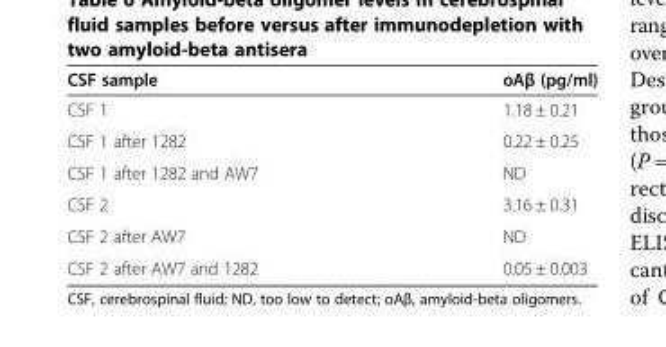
<table><thead><tr><td>CSF sample</td><td>oAβ (pg/ml)</td></tr></thead><tbody><tr><td>CSF 1</td><td>1.18 ± 0.21</td></tr><tr><td>CSF 1 after 1282</td><td>0.22 ± 0.25</td></tr><tr><td>CSF 1 after 1282 and AW7</td><td>ND</td></tr><tr><td>CSF 2</td><td>3.16 ± 0.31</td></tr><tr><td>CSF 2 after AW7</td><td>ND</td></tr><tr><td>CSF 2 after AW7 and 1282</td><td>0.05 ± 0.003</td></tr></tbody></table>